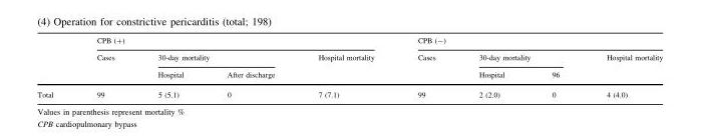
<table><thead><tr><td rowspan="3"></td><td colspan="4">CPB (+)</td><td colspan="4">CPB (-)</td></tr><tr><td rowspan="2">Cases</td><td colspan="2">30-day mortality</td><td rowspan="2">Hospital mortality</td><td rowspan="2">Cases</td><td colspan="2">30-day mortality</td><td rowspan="2">Hospital mortality</td></tr><tr><td>Hospital</td><td>After discharge</td><td>Hospital</td><td>96</td></tr></thead><tbody><tr><td>Total</td><td>99</td><td>5 (5.1)</td><td>0</td><td>7 (7.1)</td><td>99</td><td>2 (2.0)</td><td>0</td><td>4 (4.0)</td></tr></tbody></table>